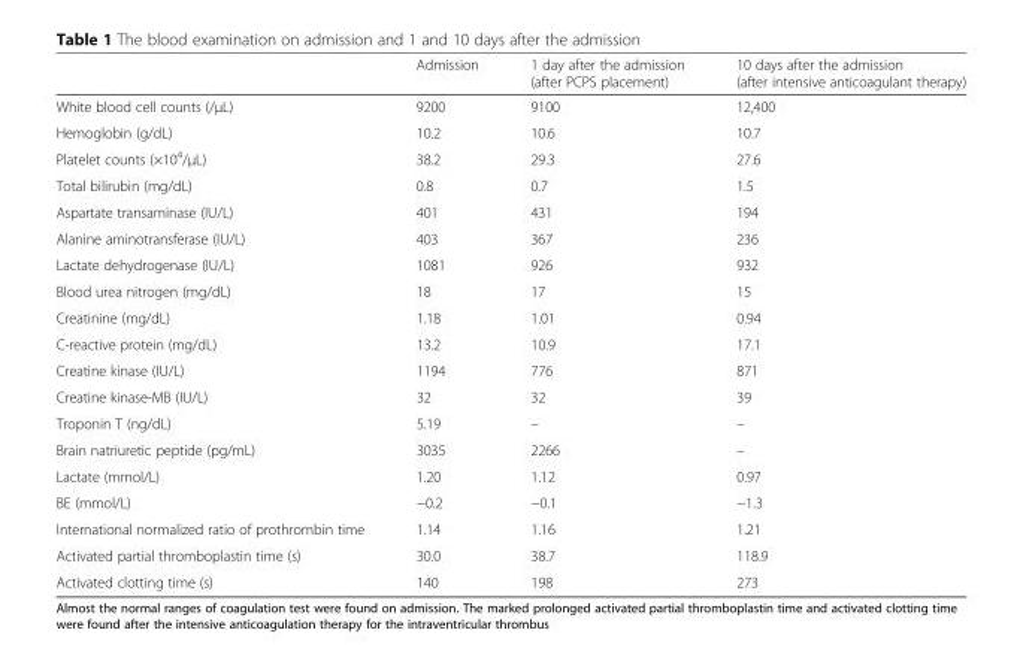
<table><thead><tr><td></td><td>Admission</td><td>1 day after the admission (after PCPS placement)</td><td>10 days after the admission (after intensive anticoagulant therapy)</td></tr></thead><tbody><tr><td>White blood cell counts (/μL)</td><td>9200</td><td>9100</td><td>12,400</td></tr><tr><td>Hemoglobin (g/dL)</td><td>10.2</td><td>10.6</td><td>10.7</td></tr><tr><td>Platelet counts (×10<sup>4</sup>/μL)</td><td>38.2</td><td>29.3</td><td>27.6</td></tr><tr><td>Total bilirubin (mg/dL)</td><td>0.8</td><td>0.7</td><td>1.5</td></tr><tr><td>Aspartate transaminase (IU/L)</td><td>401</td><td>431</td><td>194</td></tr><tr><td>Alanine aminotransferase (IU/L)</td><td>403</td><td>367</td><td>236</td></tr><tr><td>Lactate dehydrogenase (IU/L)</td><td>1081</td><td>926</td><td>932</td></tr><tr><td>Blood urea nitrogen (mg/dL)</td><td>18</td><td>17</td><td>15</td></tr><tr><td>Creatinine (mg/dL)</td><td>1.18</td><td>1.01</td><td>0.94</td></tr><tr><td>C-reactive protein (mg/dL)</td><td>13.2</td><td>10.9</td><td>17.1</td></tr><tr><td>Creatine kinase (IU/L)</td><td>1194</td><td>776</td><td>871</td></tr><tr><td>Creatine kinase-MB (IU/L)</td><td>32</td><td>32</td><td>39</td></tr><tr><td>Troponin T (ng/dL)</td><td>5.19</td><td>–</td><td>–</td></tr><tr><td>Brain natriuretic peptide (pg/mL)</td><td>3035</td><td>2266</td><td>–</td></tr><tr><td>Lactate (mmol/L)</td><td>1.20</td><td>1.12</td><td>0.97</td></tr><tr><td>BE (mmol/L)</td><td>−0.2</td><td>−0.1</td><td>−1.3</td></tr><tr><td>International normalized ratio of prothrombin time</td><td>1.14</td><td>1.16</td><td>1.21</td></tr><tr><td>Activated partial thromboplastin time (s)</td><td>30.0</td><td>38.7</td><td>118.9</td></tr><tr><td>Activated clotting time (s)</td><td>140</td><td>198</td><td>273</td></tr></tbody></table>